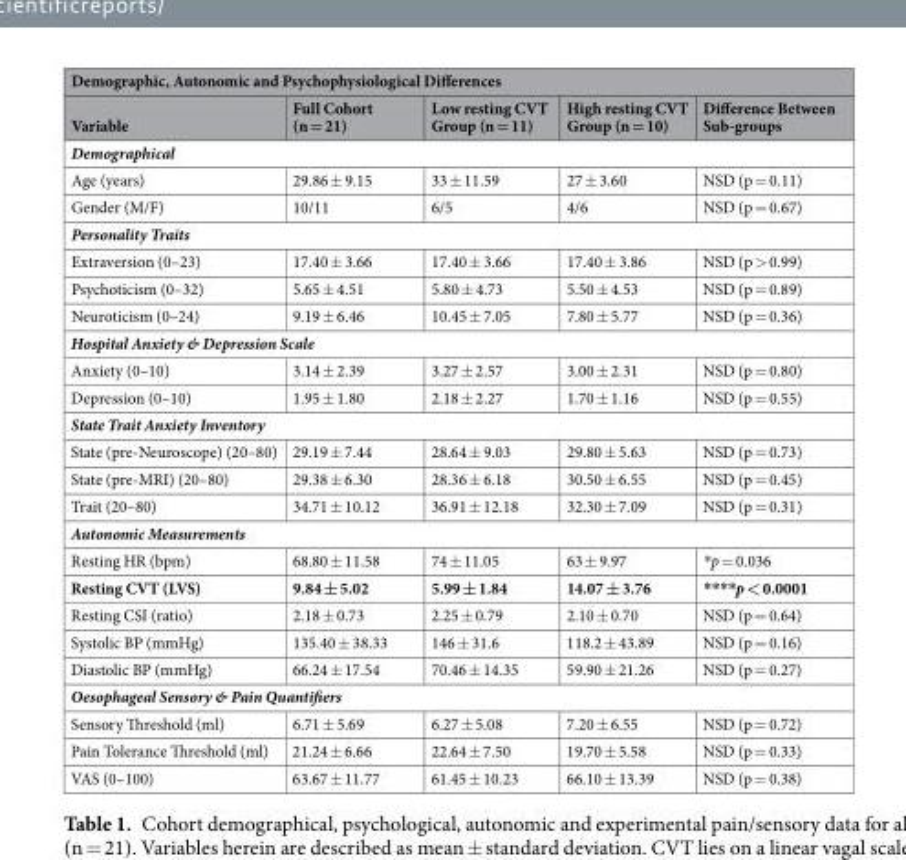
<table><thead><tr><td colspan="5">Demographic, Autonomic and Psychophysiological Differences</td></tr><tr><td>Variable</td><td>Full Cohort (n = 21)</td><td>Low resting CVT Group (n = 11)</td><td>High resting CVT Group (n = 10)</td><td>Difference Between Sub-groups</td></tr></thead><tbody><tr><td colspan="5">Demographical</td></tr><tr><td>Age (years)</td><td>29.86 ± 9.15</td><td>33 ± 11.59</td><td>27 ± 3.60</td><td>NSD (p = 0.11)</td></tr><tr><td>Gender (M/F)</td><td>10/11</td><td>6/5</td><td>4/6</td><td>NSD (p = 0.67)</td></tr><tr><td colspan="5">Personality Traits</td></tr><tr><td>Extraversion (0–23)</td><td>17.40 ± 3.66</td><td>17.40 ± 3.66</td><td>17.40 ± 3.86</td><td>NSD (p &gt; 0.99)</td></tr><tr><td>Psychoticism (0–32)</td><td>5.65 ± 4.51</td><td>5.80 ± 4.73</td><td>5.50 ± 4.53</td><td>NSD (p = 0.89)</td></tr><tr><td>Neuroticism (0–24)</td><td>9.19 ± 6.46</td><td>10.45 ± 7.05</td><td>7.80 ± 5.77</td><td>NSD (p = 0.36)</td></tr><tr><td colspan="5">Hospital Anxiety &amp; Depression Scale</td></tr><tr><td>Anxiety (0–10)</td><td>3.14 ± 2.39</td><td>3.27 ± 2.57</td><td>3.00 ± 2.31</td><td>NSD (p = 0.80)</td></tr><tr><td>Depression (0–10)</td><td>1.95 ± 1.80</td><td>2.18 ± 2.27</td><td>1.70 ± 1.16</td><td>NSD (p = 0.55)</td></tr><tr><td colspan="5">State Trait Anxiety Inventory</td></tr><tr><td>State (pre-Neuroscope) (20–80)</td><td>29.19 ± 7.44</td><td>28.64 ± 9.03</td><td>29.80 ± 5.63</td><td>NSD (p = 0.73)</td></tr><tr><td>State (pre-MRI) (20–80)</td><td>29.38 ± 6.30</td><td>28.36 ± 6.18</td><td>30.50 ± 6.55</td><td>NSD (p = 0.45)</td></tr><tr><td>Trait (20–80)</td><td>34.71 ± 10.12</td><td>36.91 ± 12.18</td><td>32.30 ± 7.09</td><td>NSD (p = 0.31)</td></tr><tr><td colspan="5">Autonomic Measurements</td></tr><tr><td>Resting HR (bpm)</td><td>68.80 ± 11.58</td><td>74 ± 11.05</td><td>63 ± 9.97</td><td>*p = 0.036</td></tr><tr><td>Resting CVT (LVS)</td><td>9.84 ± 5.02</td><td>5.99 ± 1.84</td><td>14.07 ± 3.76</td><td>****p &lt; 0.0001</td></tr><tr><td>Resting CSI (ratio)</td><td>2.18 ± 0.73</td><td>2.25 ± 0.79</td><td>2.10 ± 0.70</td><td>NSD (p = 0.64)</td></tr><tr><td>Systolic BP (mmHg)</td><td>135.40 ± 38.33</td><td>146 ± 31.6</td><td>118.2 ± 43.89</td><td>NSD (p = 0.16)</td></tr><tr><td>Diastolic BP (mmHg)</td><td>66.24 ± 17.54</td><td>70.46 ± 14.35</td><td>59.90 ± 21.26</td><td>NSD (p = 0.27)</td></tr><tr><td colspan="5">Oesophageal Sensory &amp; Pain Quantifiers</td></tr><tr><td>Sensory Threshold (ml)</td><td>6.71 ± 5.69</td><td>6.27 ± 5.08</td><td>7.20 ± 6.55</td><td>NSD (p = 0.72)</td></tr><tr><td>Pain Tolerance Threshold (ml)</td><td>21.24 ± 6.66</td><td>22.64 ± 7.50</td><td>19.70 ± 5.58</td><td>NSD (p = 0.33)</td></tr><tr><td>VAS (0–100)</td><td>63.67 ± 11.77</td><td>61.45 ± 10.23</td><td>66.10 ± 13.39</td><td>NSD (p = 0.38)</td></tr></tbody></table>